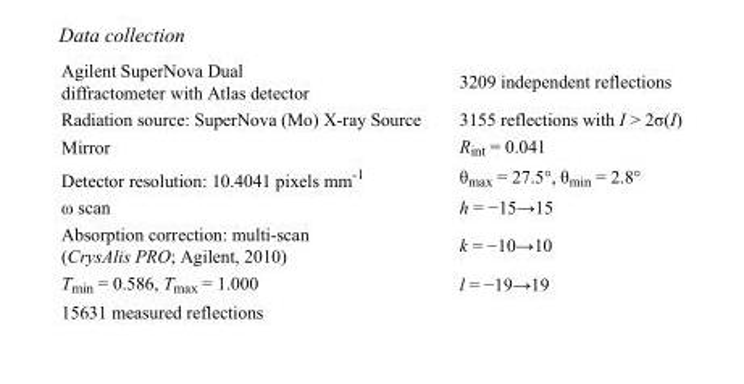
<table><tbody><tr><td>Agilent SuperNova Dual diffractometer with Atlas detector</td><td>3209 independent reflections</td></tr><tr><td>Radiation source: SuperNova (Mo) X-ray Source</td><td>3155 reflections with I &gt; 2σ(I)</td></tr><tr><td>Mirror</td><td>R<sub>int</sub> = 0.041</td></tr><tr><td>Detector resolution: 10.4041 pixels mm<sup>-1</sup></td><td>θ<sub>max</sub> = 27.5°, θ<sub>min</sub> = 2.8°</td></tr><tr><td>ω scan</td><td>h = −15→15</td></tr><tr><td>Absorption correction: multi-scan (CrysAlis PRO; Agilent, 2010)</td><td>k = −10→10</td></tr><tr><td>T<sub>min</sub> = 0.586, T<sub>max</sub> = 1.000</td><td>l = −19→19</td></tr><tr><td>15631 measured reflections</td><td></td></tr></tbody></table>